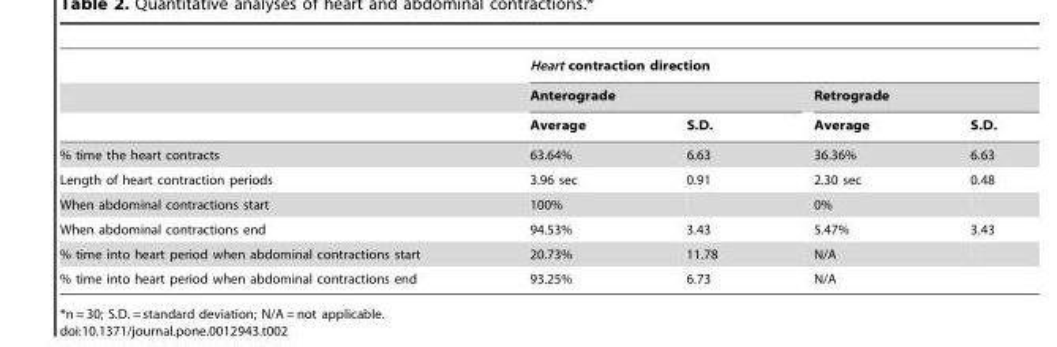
<table><thead><tr><td rowspan="3"></td><td colspan="4">Heart contraction direction</td></tr><tr><td colspan="2">Anterograde</td><td colspan="2">Retrograde</td></tr><tr><td>Average</td><td>S.D.</td><td>Average</td><td>S.D.</td></tr></thead><tbody><tr><td>% time the heart contracts</td><td>63.64%</td><td>6.63</td><td>36.36%</td><td>6.63</td></tr><tr><td>Length of heart contraction periods</td><td>3.96 sec</td><td>0.91</td><td>2.30 sec</td><td>0.48</td></tr><tr><td>When abdominal contractions start</td><td>100%</td><td></td><td>0%</td><td></td></tr><tr><td>When abdominal contractions end</td><td>94.53%</td><td>3.43</td><td>5.47%</td><td>3.43</td></tr><tr><td>% time into heart period when abdominal contractions start</td><td>20.73%</td><td>11.78</td><td>N/A</td><td></td></tr><tr><td>% time into heart period when abdominal contractions end</td><td>93.25%</td><td>6.73</td><td>N/A</td><td></td></tr></tbody></table>